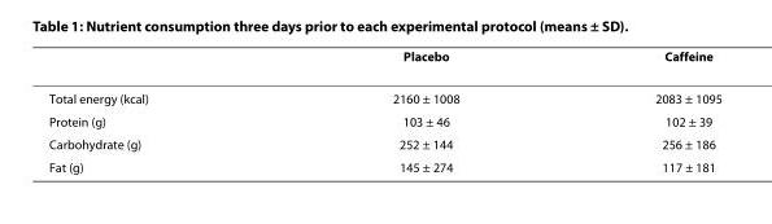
<table><thead><tr><td></td><td>Placebo</td><td>Caffeine</td></tr></thead><tbody><tr><td>Total energy (kcal)</td><td>2160 ± 1008</td><td>2083 ± 1095</td></tr><tr><td>Protein (g)</td><td>103 ± 46</td><td>102 ± 39</td></tr><tr><td>Carbohydrate (g)</td><td>252 ± 144</td><td>256 ± 186</td></tr><tr><td>Fat (g)</td><td>145 ± 274</td><td>117 ± 181</td></tr></tbody></table>